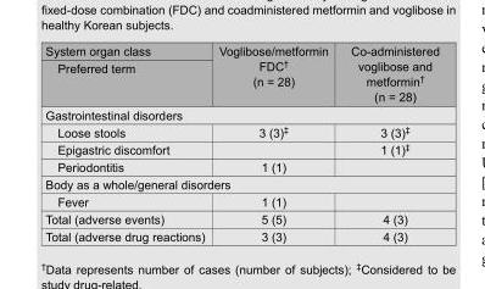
<table><thead><tr><td>System organ class Preferred term</td><td>Voglibose/metformin FDC<sup>†</sup> (n = 28)</td><td>Co-administered voglibose and metformin<sup>†</sup> (n = 28)</td></tr></thead><tbody><tr><td colspan="3">Gastrointestinal disorders</td></tr><tr><td>Loose stools</td><td>3 (3)<sup>‡</sup></td><td>3 (3)<sup>‡</sup></td></tr><tr><td>Epigastric discomfort</td><td></td><td>1 (1)<sup>‡</sup></td></tr><tr><td>Periodontitis</td><td>1 (1)</td><td></td></tr><tr><td colspan="3">Body as a whole/general disorders</td></tr><tr><td>Fever</td><td>1 (1)</td><td></td></tr><tr><td>Total (adverse events)</td><td>5 (5)</td><td>4 (3)</td></tr><tr><td>Total (adverse drug reactions)</td><td>3 (3)</td><td>4 (3)</td></tr></tbody></table>